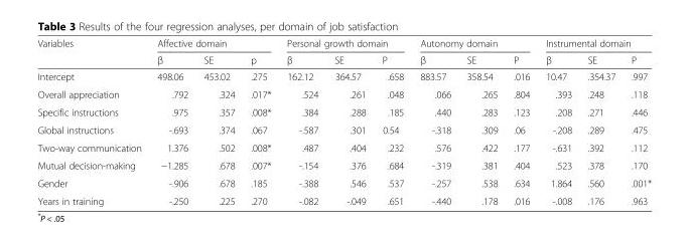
<table><thead><tr><td rowspan="2">Variables</td><td colspan="3">Affective domain</td><td colspan="3">Personal growth domain</td><td colspan="3">Autonomy domain</td><td colspan="3">Instrumental domain</td></tr><tr><td>β</td><td>SE</td><td>p</td><td>β</td><td>SE</td><td>P</td><td>β</td><td>SE</td><td>P</td><td>β</td><td>SE</td><td>P</td></tr></thead><tbody><tr><td>Intercept</td><td>498.06</td><td>453.02</td><td>.275</td><td>162.12</td><td>364.57</td><td>.658</td><td>883.57</td><td>358.54</td><td>.016</td><td>10.47</td><td>.354.37</td><td>.997</td></tr><tr><td>Overall appreciation</td><td>.792</td><td>.324</td><td>.017*</td><td>.524</td><td>.261</td><td>.048</td><td>.066</td><td>.265</td><td>.804</td><td>.393</td><td>.248</td><td>.118</td></tr><tr><td>Specific instructions</td><td>.975</td><td>.357</td><td>.008*</td><td>.384</td><td>.288</td><td>.185</td><td>.440</td><td>.283</td><td>.123</td><td>.208</td><td>.271</td><td>.446</td></tr><tr><td>Global instructions</td><td>-.693</td><td>.374</td><td>.067</td><td>-.587</td><td>.301</td><td>0.54</td><td>-.318</td><td>.309</td><td>.06</td><td>-.208</td><td>.289</td><td>.475</td></tr><tr><td>Two-way communication</td><td>1.376</td><td>.502</td><td>.008*</td><td>.487</td><td>.404</td><td>.232</td><td>.576</td><td>.422</td><td>.177</td><td>-.631</td><td>.392</td><td>.112</td></tr><tr><td>Mutual decision-making</td><td>−1.285</td><td>.678</td><td>.007*</td><td>-.154</td><td>.376</td><td>.684</td><td>-.319</td><td>.381</td><td>.404</td><td>.523</td><td>.378</td><td>.170</td></tr><tr><td>Gender</td><td>-.906</td><td>.678</td><td>.185</td><td>-.388</td><td>.546</td><td>.537</td><td>-.257</td><td>.538</td><td>.634</td><td>1.864</td><td>.560</td><td>.001*</td></tr><tr><td>Years in training</td><td>-.250</td><td>.225</td><td>.270</td><td>-.082</td><td>-.049</td><td>.651</td><td>-.440</td><td>.178</td><td>.016</td><td>-.008</td><td>.176</td><td>.963</td></tr></tbody></table>